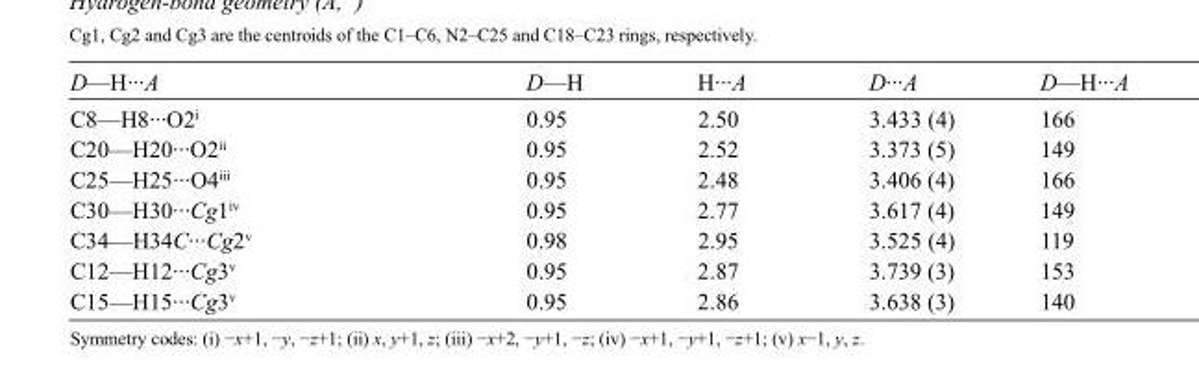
<table><tbody><tr><td>D—H···A</td><td>D—H</td><td>H···A</td><td>D···A</td><td>D—H···A</td></tr><tr><td>C8—H8···O2<sup>i</sup></td><td>0.95</td><td>2.50</td><td>3.433 (4)</td><td>166</td></tr><tr><td>C20—H20···O2<sup>ii</sup></td><td>0.95</td><td>2.52</td><td>3.373 (5)</td><td>149</td></tr><tr><td>C25—H25···O4<sup>iii</sup></td><td>0.95</td><td>2.48</td><td>3.406 (4)</td><td>166</td></tr><tr><td>C30—H30···Cg1<sup>iv</sup></td><td>0.95</td><td>2.77</td><td>3.617 (4)</td><td>149</td></tr><tr><td>C34—H34C···Cg2<sup>v</sup></td><td>0.98</td><td>2.95</td><td>3.525 (4)</td><td>119</td></tr><tr><td>C12—H12···Cg3<sup>v</sup></td><td>0.95</td><td>2.87</td><td>3.739 (3)</td><td>153</td></tr><tr><td>C15—H15···Cg3<sup>v</sup></td><td>0.95</td><td>2.86</td><td>3.638 (3)</td><td>140</td></tr></tbody></table>